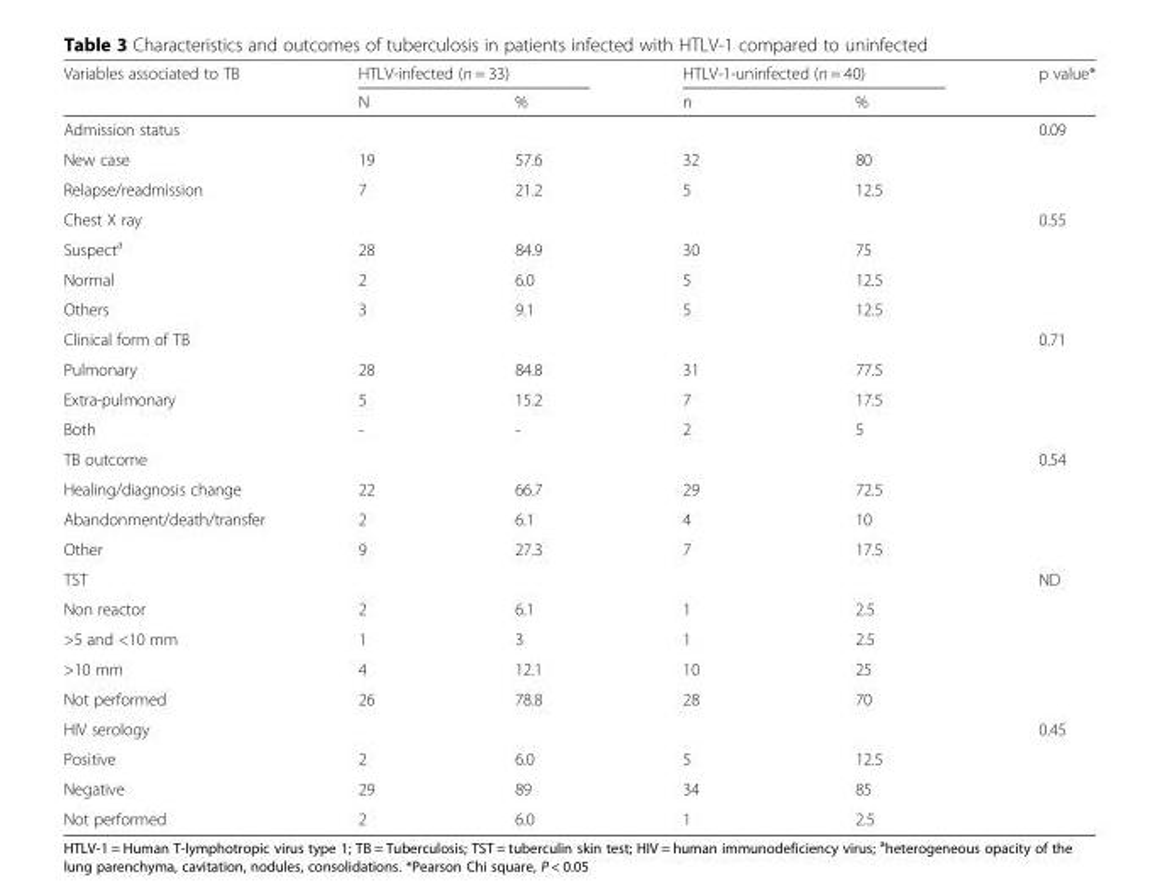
<table><thead><tr><td rowspan="2">Variables associated to TB</td><td colspan="2">HTLV-infected (n = 33)</td><td colspan="2">HTLV-1-uninfected (n = 40)</td><td rowspan="2">p value*</td></tr><tr><td>N</td><td>%</td><td>n</td><td>%</td></tr></thead><tbody><tr><td>Admission status</td><td></td><td></td><td></td><td></td><td>0.09</td></tr><tr><td>New case</td><td>19</td><td>57.6</td><td>32</td><td>80</td><td></td></tr><tr><td>Relapse/readmission</td><td>7</td><td>21.2</td><td>5</td><td>12.5</td><td></td></tr><tr><td>Chest X ray</td><td></td><td></td><td></td><td></td><td>0.55</td></tr><tr><td>Suspect<sup>a</sup></td><td>28</td><td>84.9</td><td>30</td><td>75</td><td></td></tr><tr><td>Normal</td><td>2</td><td>6.0</td><td>5</td><td>12.5</td><td></td></tr><tr><td>Others</td><td>3</td><td>9.1</td><td>5</td><td>12.5</td><td></td></tr><tr><td>Clinical form of TB</td><td></td><td></td><td></td><td></td><td>0.71</td></tr><tr><td>Pulmonary</td><td>28</td><td>84.8</td><td>31</td><td>77.5</td><td></td></tr><tr><td>Extra-pulmonary</td><td>5</td><td>15.2</td><td>7</td><td>17.5</td><td></td></tr><tr><td>Both</td><td>-</td><td>-</td><td>2</td><td>5</td><td></td></tr><tr><td>TB outcome</td><td></td><td></td><td></td><td></td><td>0.54</td></tr><tr><td>Healing/diagnosis change</td><td>22</td><td>66.7</td><td>29</td><td>72.5</td><td></td></tr><tr><td>Abandonment/death/transfer</td><td>2</td><td>6.1</td><td>4</td><td>10</td><td></td></tr><tr><td>Other</td><td>9</td><td>27.3</td><td>7</td><td>17.5</td><td></td></tr><tr><td>TST</td><td></td><td></td><td></td><td></td><td>ND</td></tr><tr><td>Non reactor</td><td>2</td><td>6.1</td><td>1</td><td>2.5</td><td></td></tr><tr><td>&gt;5 and &lt;10 mm</td><td>1</td><td>3</td><td>1</td><td>2.5</td><td></td></tr><tr><td>&gt;10 mm</td><td>4</td><td>12.1</td><td>10</td><td>25</td><td></td></tr><tr><td>Not performed</td><td>26</td><td>78.8</td><td>28</td><td>70</td><td></td></tr><tr><td>HIV serology</td><td></td><td></td><td></td><td></td><td>0.45</td></tr><tr><td>Positive</td><td>2</td><td>6.0</td><td>5</td><td>12.5</td><td></td></tr><tr><td>Negative</td><td>29</td><td>89</td><td>34</td><td>85</td><td></td></tr><tr><td>Not performed</td><td>2</td><td>6.0</td><td>1</td><td>2.5</td><td></td></tr></tbody></table>